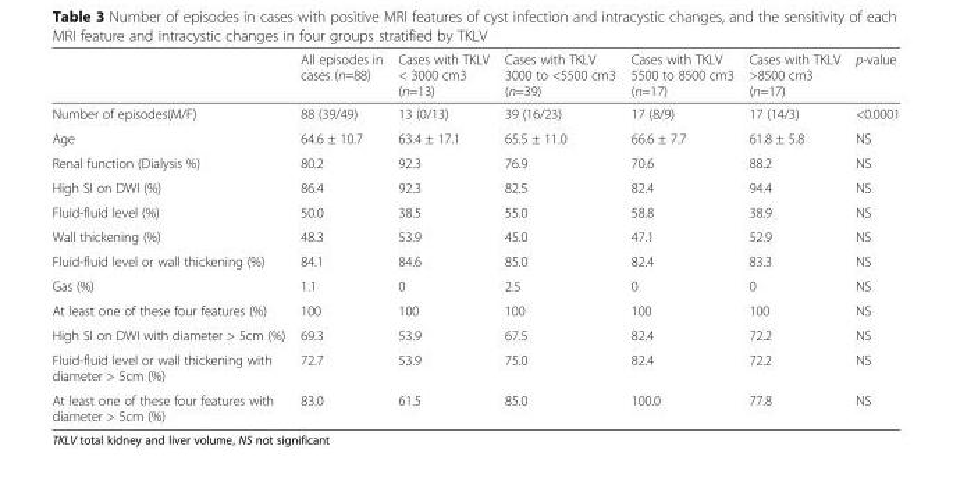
<table><thead><tr><td></td><td>All episodes in cases (n=88)</td><td>Cases with TKLV &lt; 3000 cm3 (n=13)</td><td>Cases with TKLV 3000 to &lt;5500 cm3 (n=39)</td><td>Cases with TKLV 5500 to 8500 cm3 (n=17)</td><td>Cases with TKLV &gt;8500 cm3 (n=17)</td><td>p-value</td></tr></thead><tbody><tr><td>Number of episodes(M/F)</td><td>88 (39/49)</td><td>13 (0/13)</td><td>39 (16/23)</td><td>17 (8/9)</td><td>17 (14/3)</td><td>&lt;0.0001</td></tr><tr><td>Age</td><td>64.6 ± 10.7</td><td>63.4 ± 17.1</td><td>65.5 ± 11.0</td><td>66.6 ± 7.7</td><td>61.8 ± 5.8</td><td>NS</td></tr><tr><td>Renal function (Dialysis %)</td><td>80.2</td><td>92.3</td><td>76.9</td><td>70.6</td><td>88.2</td><td>NS</td></tr><tr><td>High SI on DWI (%)</td><td>86.4</td><td>92.3</td><td>82.5</td><td>82.4</td><td>94.4</td><td>NS</td></tr><tr><td>Fluid-fluid level (%)</td><td>50.0</td><td>38.5</td><td>55.0</td><td>58.8</td><td>38.9</td><td>NS</td></tr><tr><td>Wall thickening (%)</td><td>48.3</td><td>53.9</td><td>45.0</td><td>47.1</td><td>52.9</td><td>NS</td></tr><tr><td>Fluid-fluid level or wall thickening (%)</td><td>84.1</td><td>84.6</td><td>85.0</td><td>82.4</td><td>83.3</td><td>NS</td></tr><tr><td>Gas (%)</td><td>1.1</td><td>0</td><td>2.5</td><td>0</td><td>0</td><td>NS</td></tr><tr><td>At least one of these four features (%)</td><td>100</td><td>100</td><td>100</td><td>100</td><td>100</td><td>NS</td></tr><tr><td>High SI on DWI with diameter &gt; 5cm (%)</td><td>69.3</td><td>53.9</td><td>67.5</td><td>82.4</td><td>72.2</td><td>NS</td></tr><tr><td>Fluid-fluid level or wall thickening with diameter &gt; 5cm (%)</td><td>72.7</td><td>53.9</td><td>75.0</td><td>82.4</td><td>72.2</td><td>NS</td></tr><tr><td>At least one of these four features with diameter &gt; 5cm (%)</td><td>83.0</td><td>61.5</td><td>85.0</td><td>100.0</td><td>77.8</td><td>NS</td></tr></tbody></table>